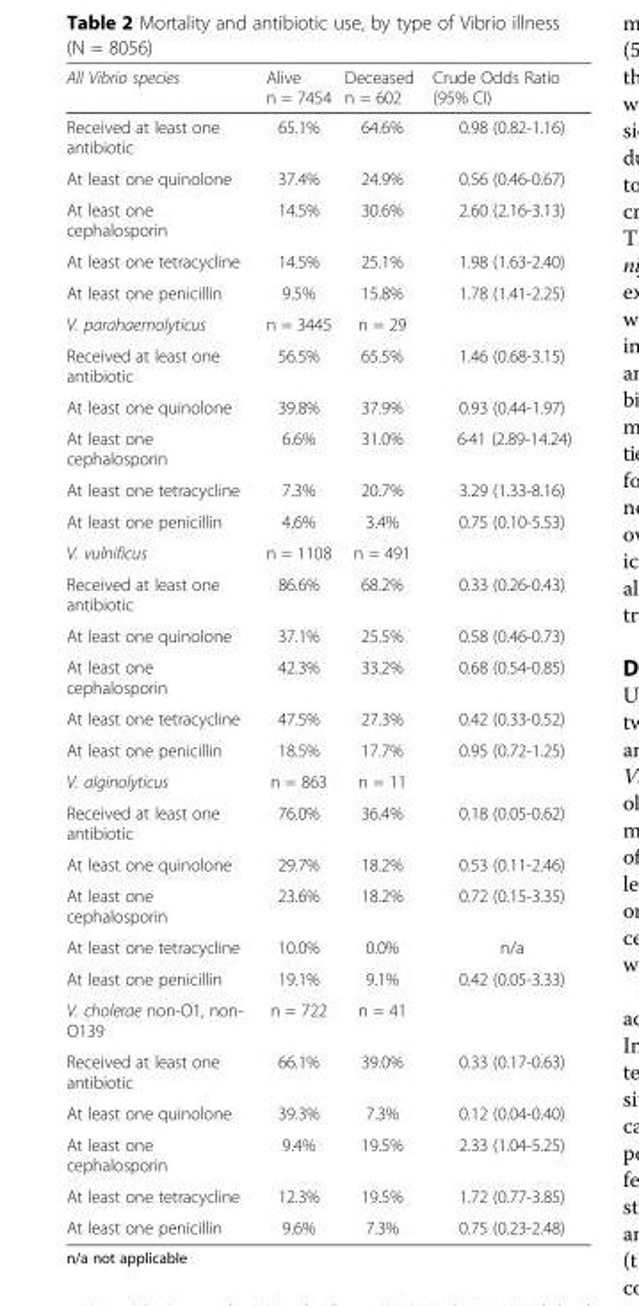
<table><thead><tr><td>All Vibrio species</td><td>Alive n = 7454</td><td>Deceased n = 602</td><td>Crude Odds Ratio (95% CI)</td></tr></thead><tbody><tr><td>Received at least one antibiotic</td><td>65.1%</td><td>64.6%</td><td>0.98 (0.82-1.16)</td></tr><tr><td>At least one quinolone</td><td>37.4%</td><td>24.9%</td><td>0.56 (0.46-0.67)</td></tr><tr><td>At least one cephalosporin</td><td>14.5%</td><td>30.6%</td><td>2.60 (2.16-3.13)</td></tr><tr><td>At least one tetracycline</td><td>14.5%</td><td>25.1%</td><td>1.98 (1.63-2.40)</td></tr><tr><td>At least one penicillin</td><td>9.5%</td><td>15.8%</td><td>1.78 (1.41-2.25)</td></tr><tr><td>V. parahaemolyticus</td><td>n = 3445</td><td>n = 29</td><td></td></tr><tr><td>Received at least one antibiotic</td><td>56.5%</td><td>65.5%</td><td>1.46 (0.68-3.15)</td></tr><tr><td>At least one quinolone</td><td>39.8%</td><td>37.9%</td><td>0.93 (0.44-1.97)</td></tr><tr><td>At least one cephalosporin</td><td>6.6%</td><td>31.0%</td><td>6·41 (2.89-14.24)</td></tr><tr><td>At least one tetracycline</td><td>7.3%</td><td>20.7%</td><td>3.29 (1.33-8.16)</td></tr><tr><td>At least one penicillin</td><td>4.6%</td><td>3.4%</td><td>0.75 (0.10-5.53)</td></tr><tr><td>V. vulnificus</td><td>n = 1108</td><td>n = 491</td><td></td></tr><tr><td>Received at least one antibiotic</td><td>86.6%</td><td>68.2%</td><td>0.33 (0.26-0.43)</td></tr><tr><td>At least one quinolone</td><td>37.1%</td><td>25.5%</td><td>0.58 (0.46-0.73)</td></tr><tr><td>At least one cephalosporin</td><td>42.3%</td><td>33.2%</td><td>0.68 (0.54-0.85)</td></tr><tr><td>At least one tetracycline</td><td>47.5%</td><td>27.3%</td><td>0.42 (0.33-0.52)</td></tr><tr><td>At least one penicillin</td><td>18.5%</td><td>17.7%</td><td>0.95 (0.72-1.25)</td></tr><tr><td>V. alginolyticus</td><td>n = 863</td><td>n = 11</td><td></td></tr><tr><td>Received at least one antibiotic</td><td>76.0%</td><td>36.4%</td><td>0.18 (0.05-0.62)</td></tr><tr><td>At least one quinolone</td><td>29.7%</td><td>18.2%</td><td>0.53 (0.11-2.46)</td></tr><tr><td>At least one cephalosporin</td><td>23.6%</td><td>18.2%</td><td>0.72 (0.15-3.35)</td></tr><tr><td>At least one tetracycline</td><td>10.0%</td><td>0.0%</td><td>n/a</td></tr><tr><td>At least one penicillin</td><td>19.1%</td><td>9.1%</td><td>0.42 (0.05-3.33)</td></tr><tr><td>V. cholerae non-O1, non- O139</td><td>n = 722</td><td>n = 41</td><td></td></tr><tr><td>Received at least one antibiotic</td><td>66.1%</td><td>39.0%</td><td>0.33 (0.17-0.63)</td></tr><tr><td>At least one quinolone</td><td>39.3%</td><td>7.3%</td><td>0.12 (0.04-0.40)</td></tr><tr><td>At least one cephalosporin</td><td>9.4%</td><td>19.5%</td><td>2.33 (1.04-5.25)</td></tr><tr><td>At least one tetracycline</td><td>12.3%</td><td>19.5%</td><td>1.72 (0.77-3.85)</td></tr><tr><td>At least one penicillin</td><td>9.6%</td><td>7.3%</td><td>0.75 (0.23-2.48)</td></tr></tbody></table>